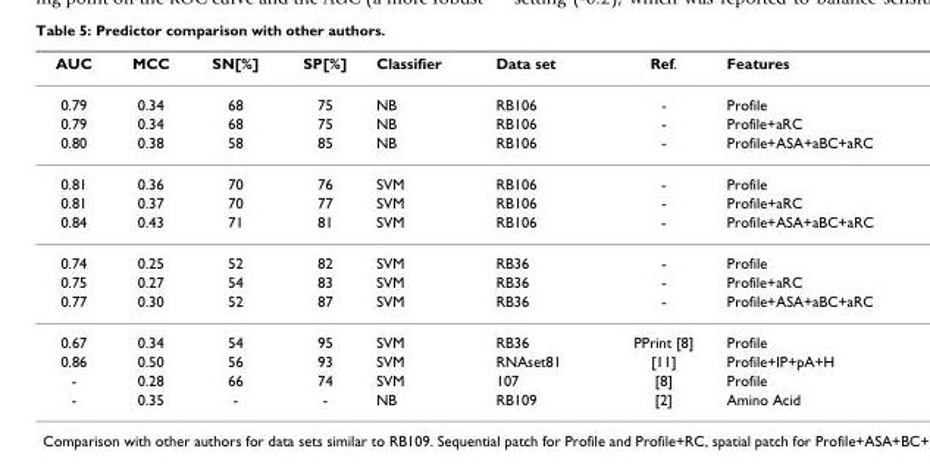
<table><thead><tr><td>AUC</td><td>MCC</td><td>SN[%]</td><td>SP[%]</td><td>Classifier</td><td>Data set</td><td>Ref.</td><td>Features</td></tr></thead><tbody><tr><td>0.79</td><td>0.34</td><td>68</td><td>75</td><td>NB</td><td>RB106</td><td>-</td><td>Profile</td></tr><tr><td>0.79</td><td>0.34</td><td>68</td><td>75</td><td>NB</td><td>RB106</td><td>-</td><td>Profile+aRC</td></tr><tr><td>0.80</td><td>0.38</td><td>58</td><td>85</td><td>NB</td><td>RB106</td><td>-</td><td>Profile+ASA+aBC+aRC</td></tr><tr><td>0.81</td><td>0.36</td><td>70</td><td>76</td><td>SVM</td><td>RB106</td><td>-</td><td>Profile</td></tr><tr><td>0.81</td><td>0.37</td><td>70</td><td>77</td><td>SVM</td><td>RB106</td><td>-</td><td>Profile+aRC</td></tr><tr><td>0.84</td><td>0.43</td><td>71</td><td>81</td><td>SVM</td><td>RB106</td><td>-</td><td>Profile+ASA+aBC+aRC</td></tr><tr><td>0.74</td><td>0.25</td><td>52</td><td>82</td><td>SVM</td><td>RB36</td><td>-</td><td>Profile</td></tr><tr><td>0.75</td><td>0.27</td><td>54</td><td>83</td><td>SVM</td><td>RB36</td><td>-</td><td>Profile+aRC</td></tr><tr><td>0.77</td><td>0.30</td><td>52</td><td>87</td><td>SVM</td><td>RB36</td><td>-</td><td>Profile+ASA+aBC+aRC</td></tr><tr><td>0.67</td><td>0.34</td><td>54</td><td>95</td><td>SVM</td><td>RB36</td><td>PPrint [8]</td><td>Profile</td></tr><tr><td>0.86</td><td>0.50</td><td>56</td><td>93</td><td>SVM</td><td>RNAset81</td><td>[11]</td><td>Profile+IP+pA+H</td></tr><tr><td>-</td><td>0.28</td><td>66</td><td>74</td><td>SVM</td><td>107</td><td>[8]</td><td>Profile</td></tr><tr><td>-</td><td>0.35</td><td>-</td><td>-</td><td>NB</td><td>RB109</td><td>[2]</td><td>Amino Acid</td></tr></tbody></table>